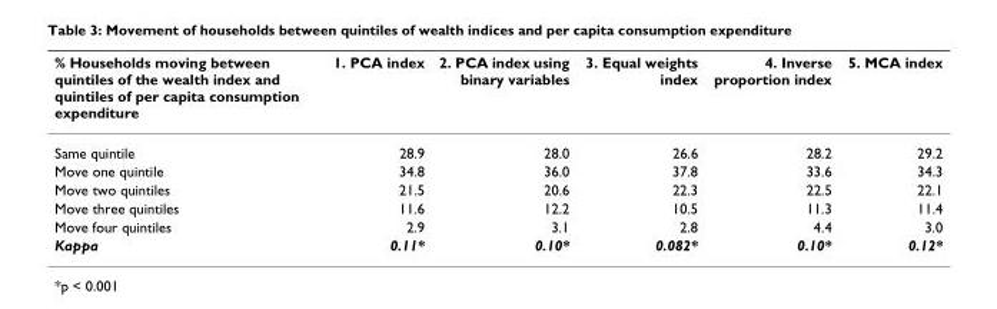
<table><thead><tr><td>% Households moving between quintiles of the wealth index and quintiles of per capita consumption expenditure</td><td>1. PCA index</td><td>2. PCA index using binary variables</td><td>3. Equal weights index</td><td>4. Inverse proportion index</td><td>5. MCA index</td></tr></thead><tbody><tr><td>Same quintile</td><td>28.9</td><td>28.0</td><td>26.6</td><td>28.2</td><td>29.2</td></tr><tr><td>Move one quintile</td><td>34.8</td><td>36.0</td><td>37.8</td><td>33.6</td><td>34.3</td></tr><tr><td>Move two quintiles</td><td>21.5</td><td>20.6</td><td>22.3</td><td>22.5</td><td>22.1</td></tr><tr><td>Move three quintiles</td><td>11.6</td><td>12.2</td><td>10.5</td><td>11.3</td><td>11.4</td></tr><tr><td>Move four quintiles</td><td>2.9</td><td>3.1</td><td>2.8</td><td>4.4</td><td>3.0</td></tr><tr><td>Kappa</td><td>0.11*</td><td>0.10*</td><td>0.082*</td><td>0.10*</td><td>0.12*</td></tr></tbody></table>